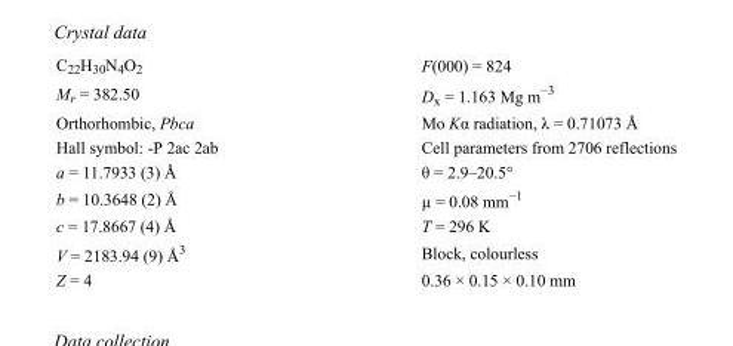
<table><tbody><tr><td>C<sub>22</sub>H<sub>30</sub>N<sub>4</sub>O<sub>2</sub></td><td>F(000) = 824</td></tr><tr><td>M<sub>r</sub> = 382.50</td><td>D<sub>x</sub> = 1.163 Mg m<sup>−3</sup></td></tr><tr><td>Orthorhombic, Pbca</td><td>Mo Kα radiation, λ = 0.71073 Å</td></tr><tr><td>Hall symbol: -P 2ac 2ab</td><td>Cell parameters from 2706 reflections</td></tr><tr><td>a = 11.7933 (3) Å</td><td>θ = 2.9–20.5°</td></tr><tr><td>b = 10.3648 (2) Å</td><td>µ = 0.08 mm<sup>−1</sup></td></tr><tr><td>c = 17.8667 (4) Å</td><td>T = 296 K</td></tr><tr><td>V = 2183.94 (9) Å<sup>3</sup></td><td>Block, colourless</td></tr><tr><td>Z = 4</td><td>0.36 × 0.15 × 0.10 mm</td></tr></tbody></table>